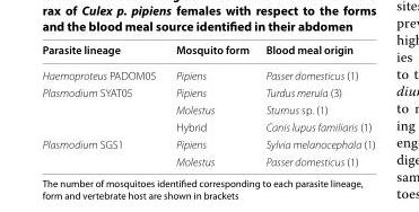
<table><thead><tr><td>Parasite lineage</td><td>Mosquito form</td><td>Blood meal origin</td></tr></thead><tbody><tr><td>Haemoproteus PADOM05</td><td>Pipiens</td><td>Passer domesticus (1)</td></tr><tr><td rowspan="3">Plasmodium SYAT05</td><td>Pipiens</td><td>Turdus merula (3)</td></tr><tr><td>Molestus</td><td>Sturnus sp. (1)</td></tr><tr><td>Hybrid</td><td>Canis lupus familiaris (1)</td></tr><tr><td rowspan="2">Plasmodium SGS1</td><td>Pipiens</td><td>Sylvia melanocephala (1)</td></tr><tr><td>Molestus</td><td>Passer domesticus (1)</td></tr></tbody></table>